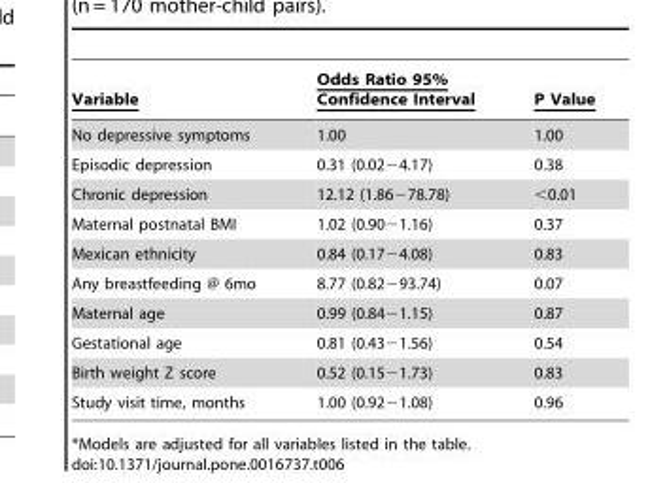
<table><thead><tr><td>Variable</td><td>Odds Ratio 95% Confidence Interval</td><td>P Value</td></tr></thead><tbody><tr><td>No depressive symptoms</td><td>1.00</td><td>1.00</td></tr><tr><td>Episodic depression</td><td>0.31 (0.02−4.17)</td><td>0.38</td></tr><tr><td>Chronic depression</td><td>12.12 (1.86−78.78)</td><td>&lt;0.01</td></tr><tr><td>Maternal postnatal BMI</td><td>1.02 (0.90−1.16)</td><td>0.37</td></tr><tr><td>Mexican ethnicity</td><td>0.84 (0.17−4.08)</td><td>0.83</td></tr><tr><td>Any breastfeeding @ 6mo</td><td>8.77 (0.82−93.74)</td><td>0.07</td></tr><tr><td>Maternal age</td><td>0.99 (0.84−1.15)</td><td>0.87</td></tr><tr><td>Gestational age</td><td>0.81 (0.43−1.56)</td><td>0.54</td></tr><tr><td>Birth weight Z score</td><td>0.52 (0.15−1.73)</td><td>0.83</td></tr><tr><td>Study visit time, months</td><td>1.00 (0.92−1.08)</td><td>0.96</td></tr></tbody></table>